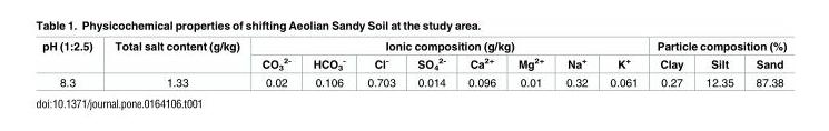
<table><thead><tr><td rowspan="2">pH (1:2.5)</td><td rowspan="2">Total salt content (g/kg)</td><td colspan="8">Ionic composition (g/kg)</td><td colspan="3">Particle composition (%)</td></tr><tr><td>CO<sub>3</sub> <sup>2-</sup></td><td>HCO<sub>3</sub> <sup>-</sup></td><td>Cl<sup>-</sup></td><td>SO<sub>4</sub> <sup>2-</sup></td><td>Ca<sup>2+</sup></td><td>Mg<sup>2+</sup></td><td>Na<sup>+</sup></td><td>K<sup>+</sup></td><td>Clay</td><td>Silt</td><td>Sand</td></tr></thead><tbody><tr><td>8.3</td><td>1.33</td><td>0.02</td><td>0.106</td><td>0.703</td><td>0.014</td><td>0.096</td><td>0.01</td><td>0.32</td><td>0.061</td><td>0.27</td><td>12.35</td><td>87.38</td></tr></tbody></table>